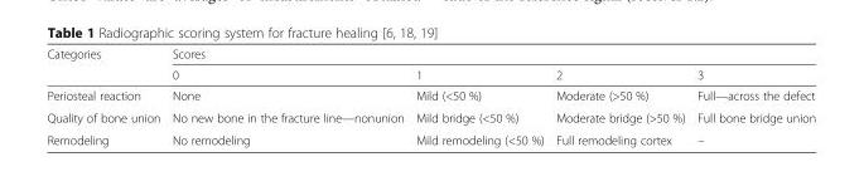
<table><thead><tr><td rowspan="2">Categories</td><td colspan="4">Scores</td></tr><tr><td>0</td><td>1</td><td>2</td><td>3</td></tr></thead><tbody><tr><td>Periosteal reaction</td><td>None</td><td>Mild (&lt;50 %)</td><td>Moderate (&gt;50 %)</td><td>Full—across the defect</td></tr><tr><td>Quality of bone union</td><td>No new bone in the fracture line—nonunion</td><td>Mild bridge (&lt;50 %)</td><td>Moderate bridge (&gt;50 %)</td><td>Full bone bridge union</td></tr><tr><td>Remodeling</td><td>No remodeling</td><td>Mild remodeling (&lt;50 %)</td><td>Full remodeling cortex</td><td>–</td></tr></tbody></table>